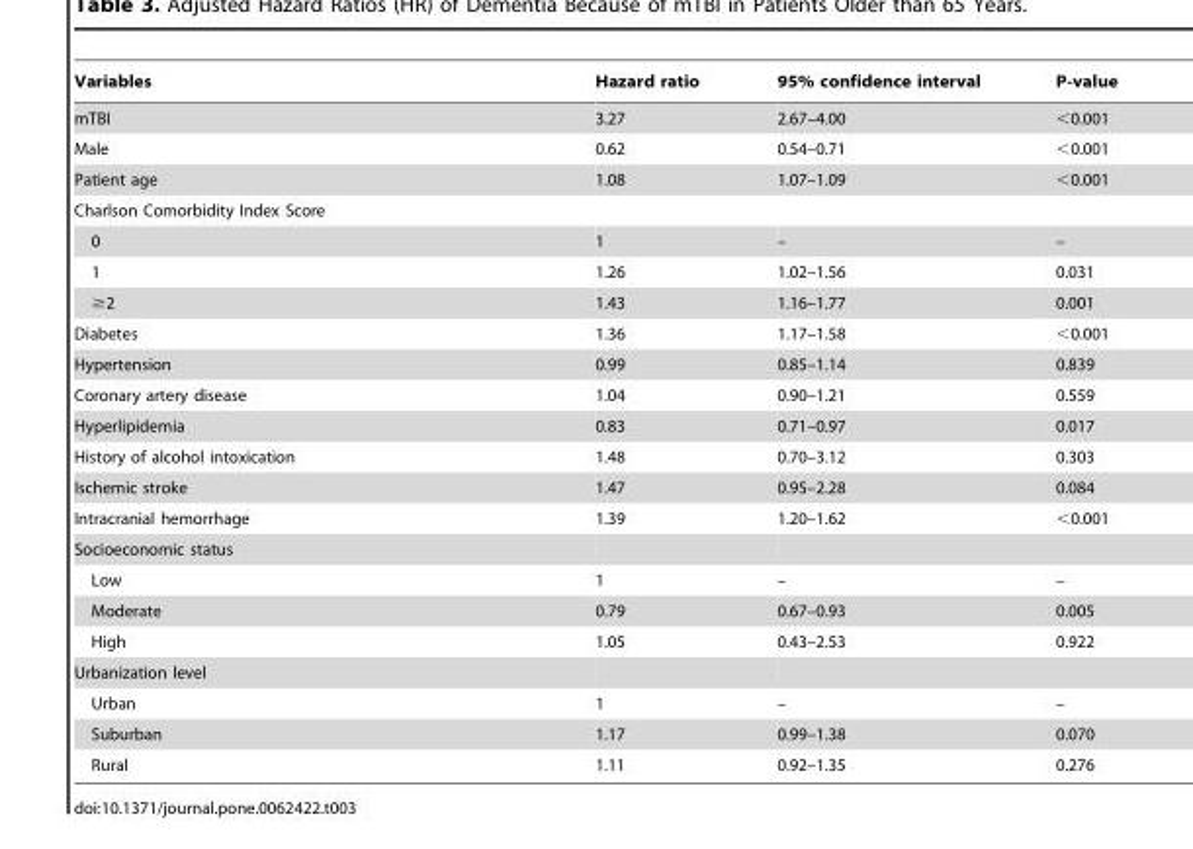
<table><thead><tr><td>Variables</td><td>Hazard ratio</td><td>95% confidence interval</td><td>P-value</td></tr></thead><tbody><tr><td>mTBI</td><td>3.27</td><td>2.67–4.00</td><td>&lt;0.001</td></tr><tr><td>Male</td><td>0.62</td><td>0.54–0.71</td><td>&lt;0.001</td></tr><tr><td>Patient age</td><td>1.08</td><td>1.07–1.09</td><td>&lt;0.001</td></tr><tr><td colspan="4">Charlson Comorbidity Index Score</td></tr><tr><td>0</td><td>1</td><td>–</td><td>–</td></tr><tr><td>1</td><td>1.26</td><td>1.02–1.56</td><td>0.031</td></tr><tr><td>≥2</td><td>1.43</td><td>1.16–1.77</td><td>0.001</td></tr><tr><td>Diabetes</td><td>1.36</td><td>1.17–1.58</td><td>&lt;0.001</td></tr><tr><td>Hypertension</td><td>0.99</td><td>0.85–1.14</td><td>0.839</td></tr><tr><td>Coronary artery disease</td><td>1.04</td><td>0.90–1.21</td><td>0.559</td></tr><tr><td>Hyperlipidemia</td><td>0.83</td><td>0.71–0.97</td><td>0.017</td></tr><tr><td>History of alcohol intoxication</td><td>1.48</td><td>0.70–3.12</td><td>0.303</td></tr><tr><td>Ischemic stroke</td><td>1.47</td><td>0.95–2.28</td><td>0.084</td></tr><tr><td>Intracranial hemorrhage</td><td>1.39</td><td>1.20–1.62</td><td>&lt;0.001</td></tr><tr><td colspan="4">Socioeconomic status</td></tr><tr><td>Low</td><td>1</td><td>–</td><td>–</td></tr><tr><td>Moderate</td><td>0.79</td><td>0.67–0.93</td><td>0.005</td></tr><tr><td>High</td><td>1.05</td><td>0.43–2.53</td><td>0.922</td></tr><tr><td colspan="4">Urbanization level</td></tr><tr><td>Urban</td><td>1</td><td>–</td><td>–</td></tr><tr><td>Suburban</td><td>1.17</td><td>0.99–1.38</td><td>0.070</td></tr><tr><td>Rural</td><td>1.11</td><td>0.92–1.35</td><td>0.276</td></tr></tbody></table>